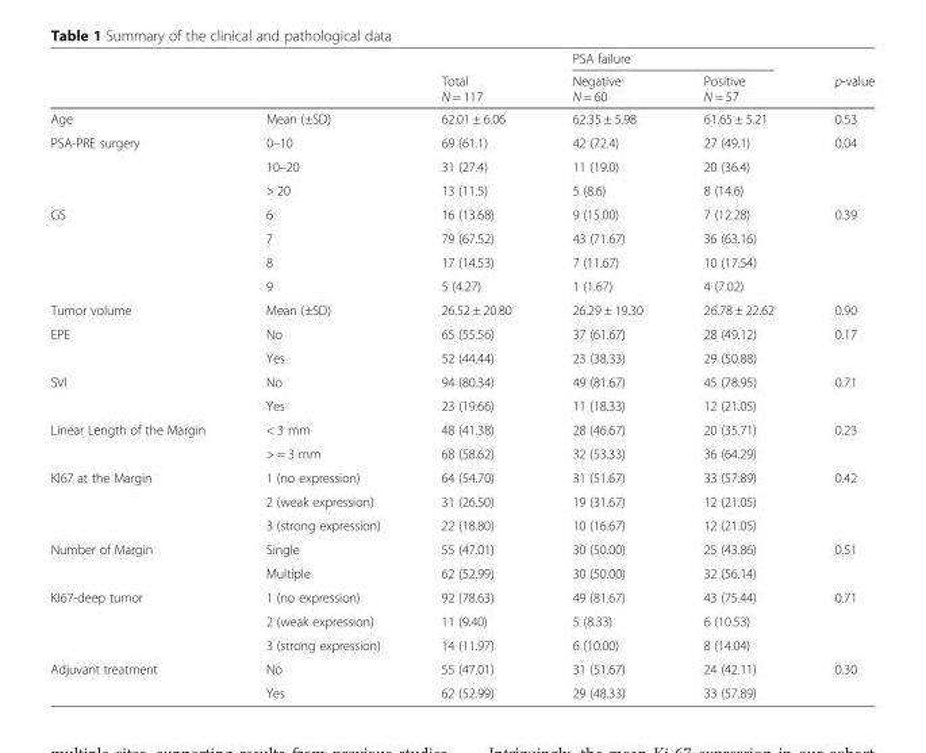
<table><thead><tr><td rowspan="2"></td><td rowspan="2"></td><td rowspan="2">Total N = 117</td><td colspan="2">PSA failure</td><td rowspan="2">p-value</td></tr><tr><td>Negative N = 60</td><td>Positive N = 57</td></tr></thead><tbody><tr><td>Age</td><td>Mean (±SD)</td><td>62.01 ± 6.06</td><td>62.35 ± 5.98</td><td>61.65 ± 5.21</td><td>0.53</td></tr><tr><td rowspan="3">PSA-PRE surgery</td><td>0–10</td><td>69 (61.1)</td><td>42 (72.4)</td><td>27 (49.1)</td><td rowspan="3">0.04</td></tr><tr><td>10–20</td><td>31 (27.4)</td><td>11 (19.0)</td><td>20 (36.4)</td></tr><tr><td>&gt; 20</td><td>13 (11.5)</td><td>5 (8.6)</td><td>8 (14.6)</td></tr><tr><td rowspan="4">GS</td><td>6</td><td>16 (13.68)</td><td>9 (15.00)</td><td>7 (12.28)</td><td rowspan="4">0.39</td></tr><tr><td>7</td><td>79 (67.52)</td><td>43 (71.67)</td><td>36 (63.16)</td></tr><tr><td>8</td><td>17 (14.53)</td><td>7 (11.67)</td><td>10 (17.54)</td></tr><tr><td>9</td><td>5 (4.27)</td><td>1 (1.67)</td><td>4 (7.02)</td></tr><tr><td>Tumor volume</td><td>Mean (±SD)</td><td>26.52 ± 20.80</td><td>26.29 ± 19.30</td><td>26.78 ± 22.62</td><td>0.90</td></tr><tr><td rowspan="2">EPE</td><td>No</td><td>65 (55.56)</td><td>37 (61.67)</td><td>28 (49.12)</td><td rowspan="2">0.17</td></tr><tr><td>Yes</td><td>52 (44.44)</td><td>23 (38.33)</td><td>29 (50.88)</td></tr><tr><td rowspan="2">SVI</td><td>No</td><td>94 (80.34)</td><td>49 (81.67)</td><td>45 (78.95)</td><td rowspan="2">0.71</td></tr><tr><td>Yes</td><td>23 (19.66)</td><td>11 (18.33)</td><td>12 (21.05)</td></tr><tr><td rowspan="2">Linear Length of the Margin</td><td>&lt; 3 mm</td><td>48 (41.38)</td><td>28 (46.67)</td><td>20 (35.71)</td><td rowspan="2">0.23</td></tr><tr><td>&gt; = 3 mm</td><td>68 (58.62)</td><td>32 (53.33)</td><td>36 (64.29)</td></tr><tr><td rowspan="3">KI67 at the Margin</td><td>1 (no expression)</td><td>64 (54.70)</td><td>31 (51.67)</td><td>33 (57.89)</td><td rowspan="3">0.42</td></tr><tr><td>2 (weak expression)</td><td>31 (26.50)</td><td>19 (31.67)</td><td>12 (21.05)</td></tr><tr><td>3 (strong expression)</td><td>22 (18.80)</td><td>10 (16.67)</td><td>12 (21.05)</td></tr><tr><td rowspan="2">Number of Margin</td><td>Single</td><td>55 (47.01)</td><td>30 (50.00)</td><td>25 (43.86)</td><td rowspan="2">0.51</td></tr><tr><td>Multiple</td><td>62 (52.99)</td><td>30 (50.00)</td><td>32 (56.14)</td></tr><tr><td rowspan="3">KI67-deep tumor</td><td>1 (no expression)</td><td>92 (78.63)</td><td>49 (81.67)</td><td>43 (75.44)</td><td rowspan="3">0.71</td></tr><tr><td>2 (weak expression)</td><td>11 (9.40)</td><td>5 (8.33)</td><td>6 (10.53)</td></tr><tr><td>3 (strong expression)</td><td>14 (11.97)</td><td>6 (10.00)</td><td>8 (14.04)</td></tr><tr><td rowspan="2">Adjuvant treatment</td><td>No</td><td>55 (47.01)</td><td>31 (51.67)</td><td>24 (42.11)</td><td rowspan="2">0.30</td></tr><tr><td>Yes</td><td>62 (52.99)</td><td>29 (48.33)</td><td>33 (57.89)</td></tr></tbody></table>